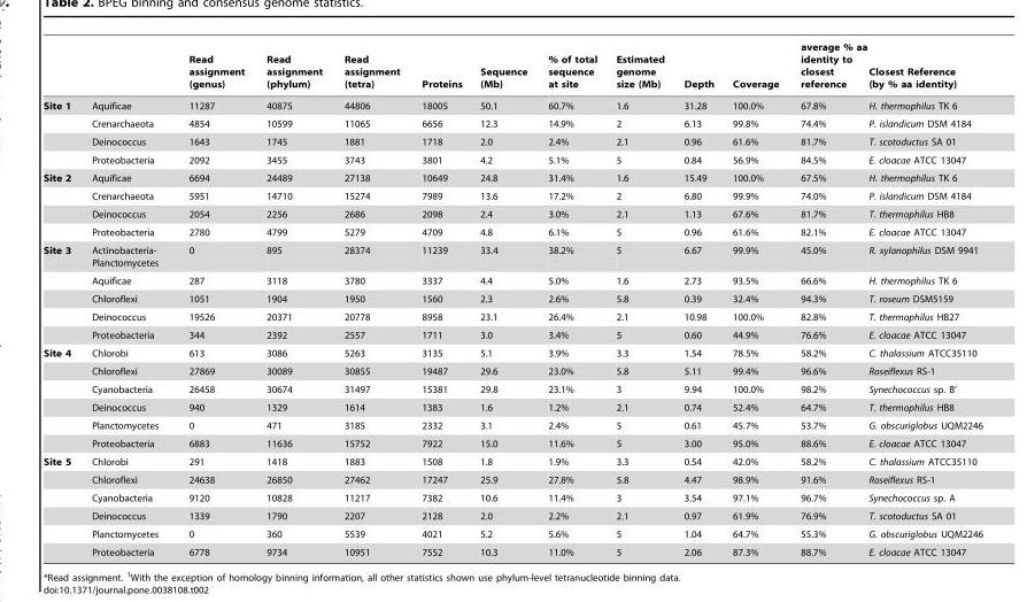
<table><thead><tr><td></td><td></td><td>Read assignment (genus)</td><td>Read assignment (phylum)</td><td>Read assignment (tetra)</td><td>Proteins</td><td>Sequence (Mb)</td><td>% of total sequence at site</td><td>Estimated genome size (Mb)</td><td>Depth</td><td>Coverage</td><td>average % aa identity to closest reference</td><td>Closest Reference (by % aa identity)</td></tr></thead><tbody><tr><td rowspan="4">Site 1</td><td>Aquificae</td><td>11287</td><td>40875</td><td>44806</td><td>18005</td><td>50.1</td><td>60.7%</td><td>1.6</td><td>31.28</td><td>100.0%</td><td>67.8%</td><td>H. thermophilus TK 6</td></tr><tr><td>Crenarchaeota</td><td>4854</td><td>10599</td><td>11065</td><td>6656</td><td>12.3</td><td>14.9%</td><td>2</td><td>6.13</td><td>99.8%</td><td>74.4%</td><td>P. islandicum DSM 4184</td></tr><tr><td>Deinococcus</td><td>1643</td><td>1745</td><td>1881</td><td>1718</td><td>2.0</td><td>2.4%</td><td>2.1</td><td>0.96</td><td>61.6%</td><td>81.7%</td><td>T. scotoductus SA 01</td></tr><tr><td>Proteobacteria</td><td>2092</td><td>3455</td><td>3743</td><td>3801</td><td>4.2</td><td>5.1%</td><td>5</td><td>0.84</td><td>56.9%</td><td>84.5%</td><td>E. cloacae ATCC 13047</td></tr><tr><td rowspan="4">Site 2</td><td>Aquificae</td><td>6694</td><td>24489</td><td>27138</td><td>10649</td><td>24.8</td><td>31.4%</td><td>1.6</td><td>15.49</td><td>100.0%</td><td>67.5%</td><td>H. thermophilus TK 6</td></tr><tr><td>Crenarchaeota</td><td>5951</td><td>14710</td><td>15274</td><td>7989</td><td>13.6</td><td>17.2%</td><td>2</td><td>6.80</td><td>99.9%</td><td>74.0%</td><td>P. islandicum DSM 4184</td></tr><tr><td>Deinococcus</td><td>2054</td><td>2256</td><td>2686</td><td>2098</td><td>2.4</td><td>3.0%</td><td>2.1</td><td>1.13</td><td>67.6%</td><td>81.7%</td><td>T. thermophilus HB8</td></tr><tr><td>Proteobacteria</td><td>2780</td><td>4799</td><td>5279</td><td>4709</td><td>4.8</td><td>6.1%</td><td>5</td><td>0.96</td><td>61.6%</td><td>82.1%</td><td>E. cloacae ATCC 13047</td></tr><tr><td rowspan="5">Site 3</td><td>Actinobacteria- Planctomycetes</td><td>0</td><td>895</td><td>28374</td><td>11239</td><td>33.4</td><td>38.2%</td><td>5</td><td>6.67</td><td>99.9%</td><td>45.0%</td><td>R. xylanophilus DSM 9941</td></tr><tr><td>Aquificae</td><td>287</td><td>3118</td><td>3780</td><td>3337</td><td>4.4</td><td>5.0%</td><td>1.6</td><td>2.73</td><td>93.5%</td><td>66.6%</td><td>H. thermophilus TK 6</td></tr><tr><td>Chloroflexi</td><td>1051</td><td>1904</td><td>1950</td><td>1560</td><td>2.3</td><td>2.6%</td><td>5.8</td><td>0.39</td><td>32.4%</td><td>94.3%</td><td>T. roseum DSM5159</td></tr><tr><td>Deinococcus</td><td>19526</td><td>20371</td><td>20778</td><td>8958</td><td>23.1</td><td>26.4%</td><td>2.1</td><td>10.98</td><td>100.0%</td><td>82.8%</td><td>T. thermophilus HB27</td></tr><tr><td>Proteobacteria</td><td>344</td><td>2392</td><td>2557</td><td>1711</td><td>3.0</td><td>3.4%</td><td>5</td><td>0.60</td><td>44.9%</td><td>76.6%</td><td>E. cloacae ATCC 13047</td></tr><tr><td rowspan="6">Site 4</td><td>Chlorobi</td><td>613</td><td>3086</td><td>5263</td><td>3135</td><td>5.1</td><td>3.9%</td><td>3.3</td><td>1.54</td><td>78.5%</td><td>58.2%</td><td>C. thalassium ATCC35110</td></tr><tr><td>Chloroflexi</td><td>27869</td><td>30089</td><td>30855</td><td>19487</td><td>29.6</td><td>23.0%</td><td>5.8</td><td>5.11</td><td>99.4%</td><td>96.6%</td><td>Roseiflexus RS-1</td></tr><tr><td>Cyanobacteria</td><td>26458</td><td>30674</td><td>31497</td><td>15381</td><td>29.8</td><td>23.1%</td><td>3</td><td>9.94</td><td>100.0%</td><td>98.2%</td><td>Synechococcus sp. B’</td></tr><tr><td>Deinococcus</td><td>940</td><td>1329</td><td>1614</td><td>1383</td><td>1.6</td><td>1.2%</td><td>2.1</td><td>0.74</td><td>52.4%</td><td>64.7%</td><td>T. thermophilus HB8</td></tr><tr><td>Planctomycetes</td><td>0</td><td>471</td><td>3185</td><td>2332</td><td>3.1</td><td>2.4%</td><td>5</td><td>0.61</td><td>45.7%</td><td>53.7%</td><td>G. obscuriglobus UQM2246</td></tr><tr><td>Proteobacteria</td><td>6883</td><td>11636</td><td>15752</td><td>7922</td><td>15.0</td><td>11.6%</td><td>5</td><td>3.00</td><td>95.0%</td><td>88.6%</td><td>E. cloacae ATCC 13047</td></tr><tr><td rowspan="6">Site 5</td><td>Chlorobi</td><td>291</td><td>1418</td><td>1883</td><td>1508</td><td>1.8</td><td>1.9%</td><td>3.3</td><td>0.54</td><td>42.0%</td><td>58.2%</td><td>C. thalassium ATCC35110</td></tr><tr><td>Chloroflexi</td><td>24638</td><td>26850</td><td>27462</td><td>17247</td><td>25.9</td><td>27.8%</td><td>5.8</td><td>4.47</td><td>98.9%</td><td>91.6%</td><td>Roseiflexus RS-1</td></tr><tr><td>Cyanobacteria</td><td>9120</td><td>10828</td><td>11217</td><td>7382</td><td>10.6</td><td>11.4%</td><td>3</td><td>3.54</td><td>97.1%</td><td>96.7%</td><td>Synechococcus sp. A</td></tr><tr><td>Deinococcus</td><td>1339</td><td>1790</td><td>2207</td><td>2128</td><td>2.0</td><td>2.2%</td><td>2.1</td><td>0.97</td><td>61.9%</td><td>76.9%</td><td>T. scotoductus SA 01</td></tr><tr><td>Planctomycetes</td><td>0</td><td>360</td><td>5539</td><td>4021</td><td>5.2</td><td>5.6%</td><td>5</td><td>1.04</td><td>64.7%</td><td>55.3%</td><td>G. obscuriglobus UQM2246</td></tr><tr><td>Proteobacteria</td><td>6778</td><td>9734</td><td>10951</td><td>7552</td><td>10.3</td><td>11.0%</td><td>5</td><td>2.06</td><td>87.3%</td><td>88.7%</td><td>E. cloacae ATCC 13047</td></tr></tbody></table>